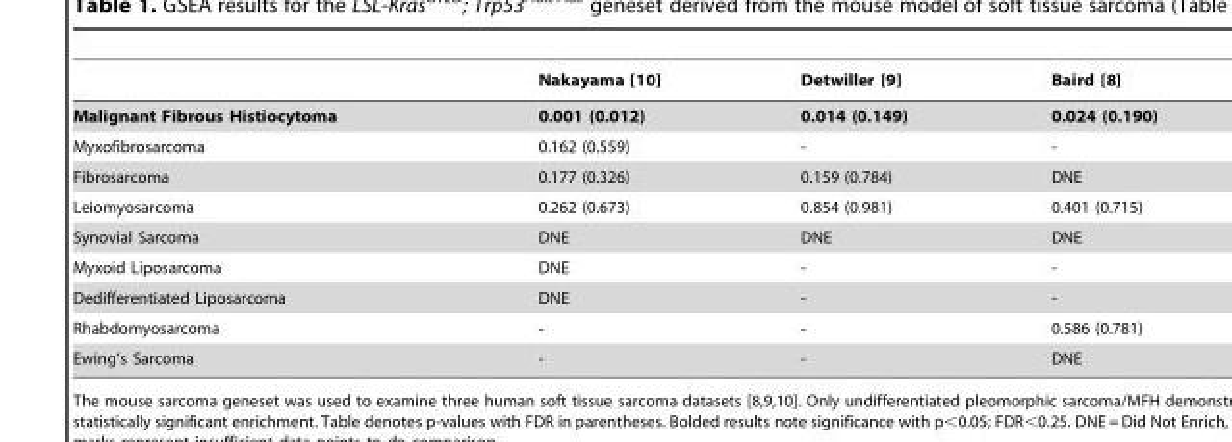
<table><thead><tr><td></td><td>Nakayama [10]</td><td>Detwiller [9]</td><td>Baird [8]</td></tr></thead><tbody><tr><td>Malignant Fibrous Histiocytoma</td><td>0.001 (0.012)</td><td>0.014 (0.149)</td><td>0.024 (0.190)</td></tr><tr><td>Myxofibrosarcoma</td><td>0.162 (0.559)</td><td>-</td><td>-</td></tr><tr><td>Fibrosarcoma</td><td>0.177 (0.326)</td><td>0.159 (0.784)</td><td>DNE</td></tr><tr><td>Leiomyosarcoma</td><td>0.262 (0.673)</td><td>0.854 (0.981)</td><td>0.401 (0.715)</td></tr><tr><td>Synovial Sarcoma</td><td>DNE</td><td>DNE</td><td>DNE</td></tr><tr><td>Myxoid Liposarcoma</td><td>DNE</td><td>-</td><td>-</td></tr><tr><td>Dedifferentiated Liposarcoma</td><td>DNE</td><td>-</td><td>-</td></tr><tr><td>Rhabdomyosarcoma</td><td>-</td><td>-</td><td>0.586 (0.781)</td></tr><tr><td>Ewing’s Sarcoma</td><td>-</td><td>-</td><td>DNE</td></tr></tbody></table>